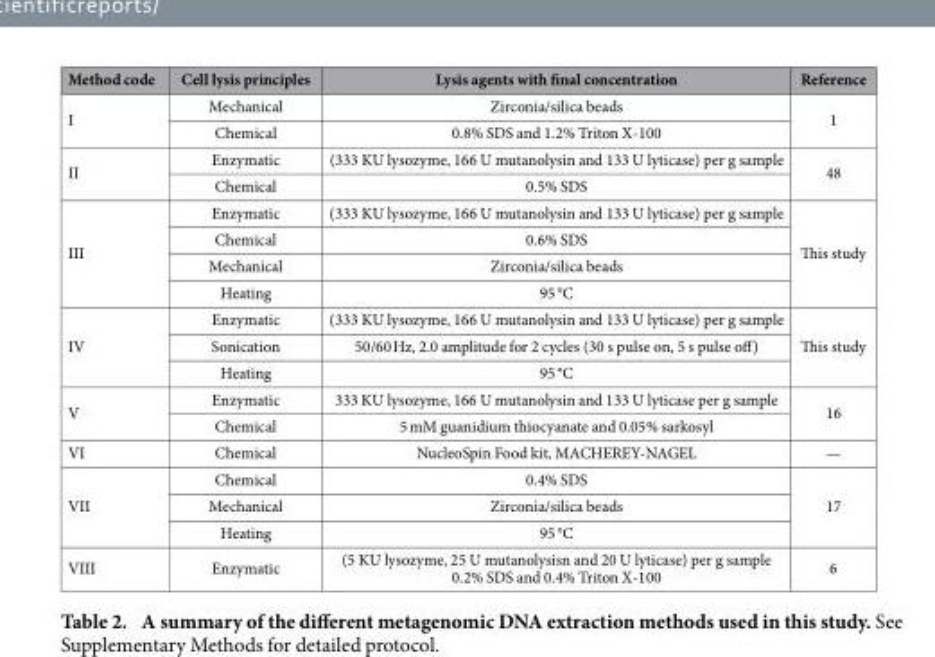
<table><thead><tr><td>Method code</td><td>Cell lysis principles</td><td>Lysis agents with final concentration</td><td>Reference</td></tr></thead><tbody><tr><td rowspan="2">I</td><td>Mechanical</td><td>Zirconia/silica beads</td><td rowspan="2">1</td></tr><tr><td>Chemical</td><td>0.8% SDS and 1.2% Triton X-100</td></tr><tr><td rowspan="2">II</td><td>Enzymatic</td><td>(333 KU lysozyme, 166 U mutanolysin and 133 U lyticase) per g sample</td><td rowspan="2">48</td></tr><tr><td>Chemical</td><td>0.5% SDS</td></tr><tr><td rowspan="4">III</td><td>Enzymatic</td><td>(333 KU lysozyme, 166 U mutanolysin and 133 U lyticase) per g sample</td><td rowspan="4">This study</td></tr><tr><td>Chemical</td><td>0.6% SDS</td></tr><tr><td>Mechanical</td><td>Zirconia/silica beads</td></tr><tr><td>Heating</td><td>95 °C</td></tr><tr><td rowspan="3">IV</td><td>Enzymatic</td><td>(333 KU lysozyme, 166 U mutanolysin and 133 U lyticase) per g sample</td><td rowspan="3">This study</td></tr><tr><td>Sonication</td><td>50/60 Hz, 2.0 amplitude for 2 cycles (30 s pulse on, 5 s pulse off)</td></tr><tr><td>Heating</td><td>95 °C</td></tr><tr><td rowspan="2">V</td><td>Enzymatic</td><td>333 KU lysozyme, 166 U mutanolysin and 133 U lyticase per g sample</td><td rowspan="2">16</td></tr><tr><td>Chemical</td><td>5 mM guanidium thiocyanate and 0.05% sarkosyl</td></tr><tr><td>VI</td><td>Chemical</td><td>NucleoSpin Food kit, MACHEREY-NAGEL</td><td>—</td></tr><tr><td rowspan="3">VII</td><td>Chemical</td><td>0.4% SDS</td><td rowspan="3">17</td></tr><tr><td>Mechanical</td><td>Zirconia/silica beads</td></tr><tr><td>Heating</td><td>95 °C</td></tr><tr><td>VIII</td><td>Enzymatic</td><td>(5 KU lysozyme, 25 U mutanolysisn and 20 U lyticase) per g sample 0.2% SDS and 0.4% Triton X-100</td><td>6</td></tr></tbody></table>